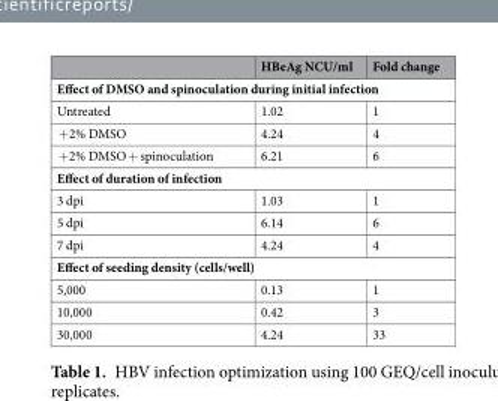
<table><thead><tr><td></td><td>HBeAg NCU/ml</td><td>Fold change</td></tr></thead><tbody><tr><td colspan="3">Effect of DMSO and spinoculation during initial infection</td></tr><tr><td>Untreated</td><td>1.02</td><td>1</td></tr><tr><td>+2% DMSO</td><td>4.24</td><td>4</td></tr><tr><td>+2% DMSO + spinoculation</td><td>6.21</td><td>6</td></tr><tr><td colspan="3">Effect of duration of infection</td></tr><tr><td>3 dpi</td><td>1.03</td><td>1</td></tr><tr><td>5 dpi</td><td>6.14</td><td>6</td></tr><tr><td>7 dpi</td><td>4.24</td><td>4</td></tr><tr><td colspan="3">Effect of seeding density (cells/well)</td></tr><tr><td>5,000</td><td>0.13</td><td>1</td></tr><tr><td>10,000</td><td>0.42</td><td>3</td></tr><tr><td>30,000</td><td>4.24</td><td>33</td></tr></tbody></table>